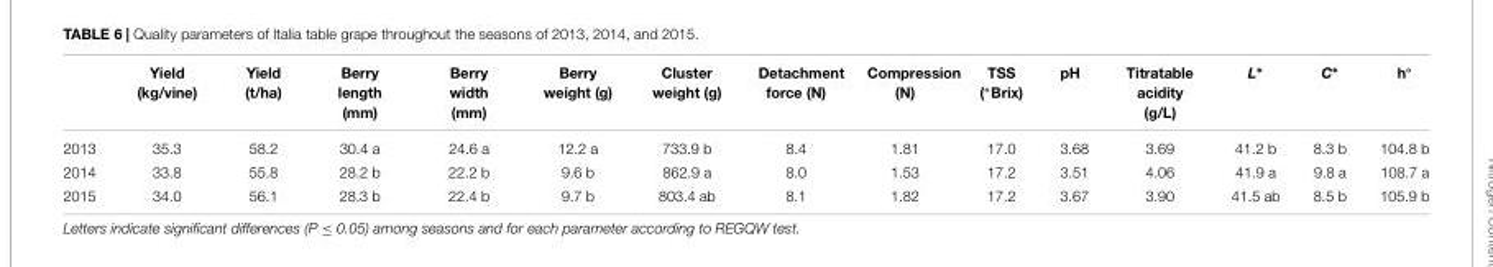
<table><thead><tr><td></td><td>Yield (kg/vine)</td><td>Yield (t/ha)</td><td>Berry length (mm)</td><td>Berry width (mm)</td><td>Berry weight (g)</td><td>Cluster weight (g)</td><td>Detachment force (N)</td><td>Compression (N)</td><td>TSS (◦Brix)</td><td>pH</td><td>Titratable acidity (g/L)</td><td>L∗</td><td>C∗</td><td>h◦</td></tr></thead><tbody><tr><td>2013</td><td>35.3</td><td>58.2</td><td>30.4 a</td><td>24.6 a</td><td>12.2 a</td><td>733.9 b</td><td>8.4</td><td>1.81</td><td>17.0</td><td>3.68</td><td>3.69</td><td>41.2 b</td><td>8.3 b</td><td>104.8 b</td></tr><tr><td>2014</td><td>33.8</td><td>55.8</td><td>28.2 b</td><td>22.2 b</td><td>9.6 b</td><td>862.9 a</td><td>8.0</td><td>1.53</td><td>17.2</td><td>3.51</td><td>4.06</td><td>41.9 a</td><td>9.8 a</td><td>108.7 a</td></tr><tr><td>2015</td><td>34.0</td><td>56.1</td><td>28.3 b</td><td>22.4 b</td><td>9.7 b</td><td>803.4 ab</td><td>8.1</td><td>1.82</td><td>17.2</td><td>3.67</td><td>3.90</td><td>41.5 ab</td><td>8.5 b</td><td>105.9 b</td></tr></tbody></table>